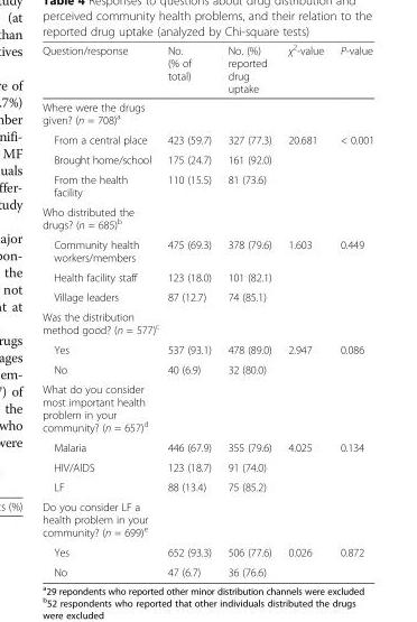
<table><thead><tr><td>Question/response</td><td>No. (% of total)</td><td>No. (%) reported drug uptake</td><td>χ<sup>2</sup>-value</td><td>P-value</td></tr></thead><tbody><tr><td colspan="5">Where were the drugs given? (n = 708)<sup>a</sup></td></tr><tr><td>From a central place</td><td>423 (59.7)</td><td>327 (77.3)</td><td rowspan="3">20.681</td><td rowspan="3">&lt; 0.001</td></tr><tr><td>Brought home/school</td><td>175 (24.7)</td><td>161 (92.0)</td></tr><tr><td>From the health facility</td><td>110 (15.5)</td><td>81 (73.6)</td></tr><tr><td colspan="5">Who distributed the drugs? (n = 685)<sup>b</sup></td></tr><tr><td>Community health workers/members</td><td>475 (69.3)</td><td>378 (79.6)</td><td rowspan="3">1.603</td><td rowspan="3">0.449</td></tr><tr><td>Health facility staff</td><td>123 (18.0)</td><td>101 (82.1)</td></tr><tr><td>Village leaders</td><td>87 (12.7)</td><td>74 (85.1)</td></tr><tr><td colspan="5">Was the distribution method good? (n = 577)<sup>c</sup></td></tr><tr><td>Yes</td><td>537 (93.1)</td><td>478 (89.0)</td><td rowspan="2">2.947</td><td rowspan="2">0.086</td></tr><tr><td>No</td><td>40 (6.9)</td><td>32 (80.0)</td></tr><tr><td colspan="5">What do you consider most important health problem in your community? (n = 657)<sup>d</sup></td></tr><tr><td>Malaria</td><td>446 (67.9)</td><td>355 (79.6)</td><td rowspan="3">4.025</td><td rowspan="3">0.134</td></tr><tr><td>HIV/AIDS</td><td>123 (18.7)</td><td>91 (74.0)</td></tr><tr><td>LF</td><td>88 (13.4)</td><td>75 (85.2)</td></tr><tr><td colspan="5">Do you consider LF a health problem in your community? (n = 699)<sup>e</sup></td></tr><tr><td>Yes</td><td>652 (93.3)</td><td>506 (77.6)</td><td rowspan="2">0.026</td><td rowspan="2">0.872</td></tr><tr><td>No</td><td>47 (6.7)</td><td>36 (76.6)</td></tr></tbody></table>